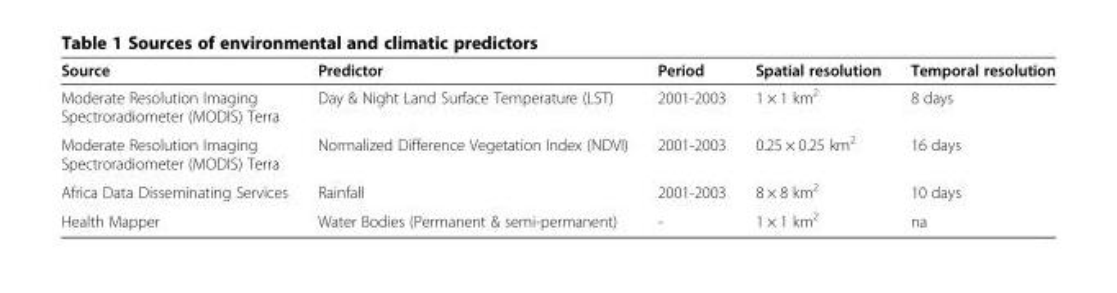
<table><thead><tr><td>Source</td><td>Predictor</td><td>Period</td><td>Spatial resolution</td><td>Temporal resolution</td></tr></thead><tbody><tr><td>Moderate Resolution Imaging Spectroradiometer (MODIS) Terra</td><td>Day &amp; Night Land Surface Temperature (LST)</td><td>2001-2003</td><td>1 × 1 km<sup>2</sup></td><td>8 days</td></tr><tr><td>Moderate Resolution Imaging Spectroradiometer (MODIS) Terra</td><td>Normalized Difference Vegetation Index (NDVI)</td><td>2001-2003</td><td>0.25 × 0.25 km<sup>2</sup></td><td>16 days</td></tr><tr><td>Africa Data Disseminating Services</td><td>Rainfall</td><td>2001-2003</td><td>8 × 8 km<sup>2</sup></td><td>10 days</td></tr><tr><td>Health Mapper</td><td>Water Bodies (Permanent &amp; semi-permanent)</td><td>-</td><td>1 × 1 km<sup>2</sup></td><td>na</td></tr></tbody></table>